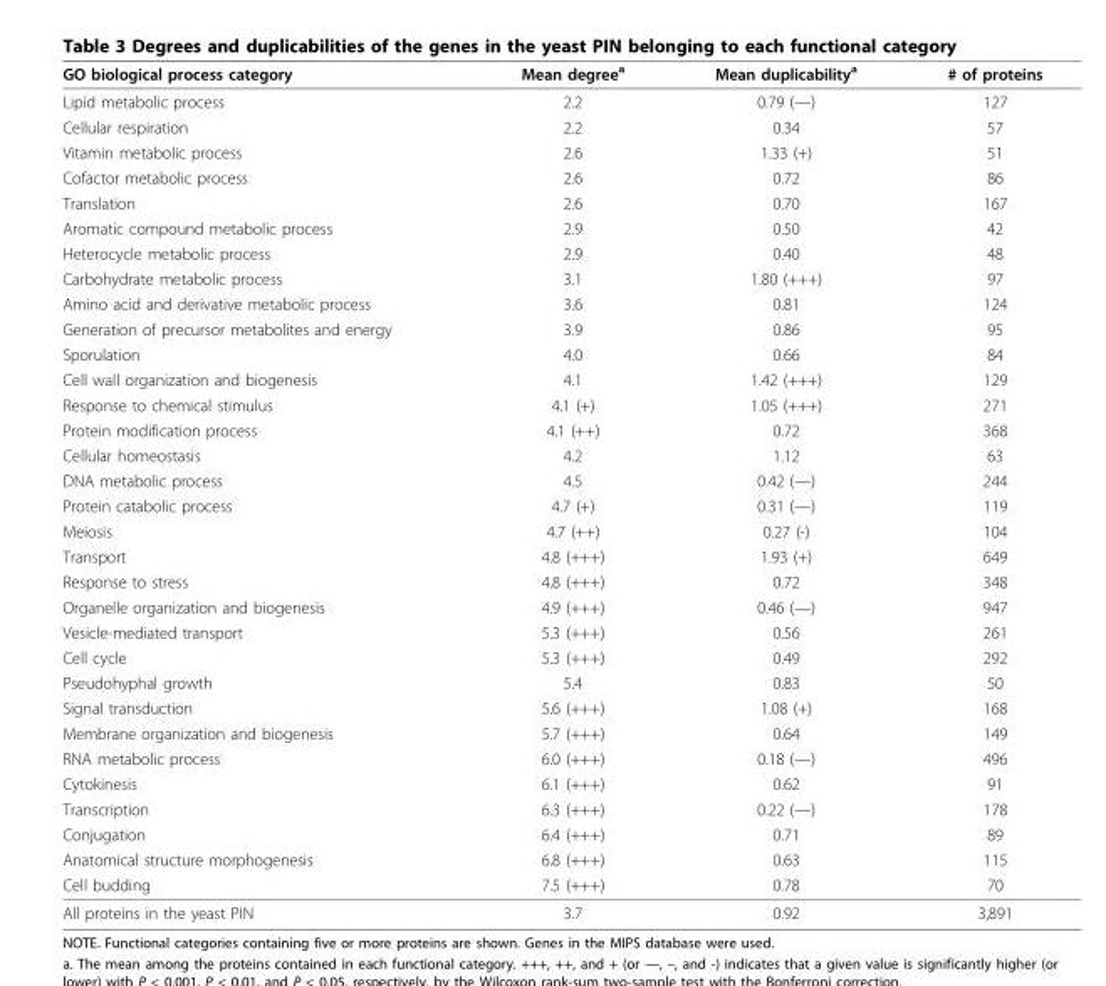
<table><thead><tr><td>GO biological process category</td><td>Mean degree<sup>a</sup></td><td>Mean duplicability<sup>a</sup></td><td># of proteins</td></tr></thead><tbody><tr><td>Lipid metabolic process</td><td>2.2</td><td>0.79 (—)</td><td>127</td></tr><tr><td>Cellular respiration</td><td>2.2</td><td>0.34</td><td>57</td></tr><tr><td>Vitamin metabolic process</td><td>2.6</td><td>1.33 (+)</td><td>51</td></tr><tr><td>Cofactor metabolic process</td><td>2.6</td><td>0.72</td><td>86</td></tr><tr><td>Translation</td><td>2.6</td><td>0.70</td><td>167</td></tr><tr><td>Aromatic compound metabolic process</td><td>2.9</td><td>0.50</td><td>42</td></tr><tr><td>Heterocycle metabolic process</td><td>2.9</td><td>0.40</td><td>48</td></tr><tr><td>Carbohydrate metabolic process</td><td>3.1</td><td>1.80 (+++)</td><td>97</td></tr><tr><td>Amino acid and derivative metabolic process</td><td>3.6</td><td>0.81</td><td>124</td></tr><tr><td>Generation of precursor metabolites and energy</td><td>3.9</td><td>0.86</td><td>95</td></tr><tr><td>Sporulation</td><td>4.0</td><td>0.66</td><td>84</td></tr><tr><td>Cell wall organization and biogenesis</td><td>4.1</td><td>1.42 (+++)</td><td>129</td></tr><tr><td>Response to chemical stimulus</td><td>4.1 (+)</td><td>1.05 (+++)</td><td>271</td></tr><tr><td>Protein modification process</td><td>4.1 (++)</td><td>0.72</td><td>368</td></tr><tr><td>Cellular homeostasis</td><td>4.2</td><td>1.12</td><td>63</td></tr><tr><td>DNA metabolic process</td><td>4.5</td><td>0.42 (—)</td><td>244</td></tr><tr><td>Protein catabolic process</td><td>4.7 (+)</td><td>0.31 (—)</td><td>119</td></tr><tr><td>Meiosis</td><td>4.7 (++)</td><td>0.27 (-)</td><td>104</td></tr><tr><td>Transport</td><td>4.8 (+++)</td><td>1.93 (+)</td><td>649</td></tr><tr><td>Response to stress</td><td>4.8 (+++)</td><td>0.72</td><td>348</td></tr><tr><td>Organelle organization and biogenesis</td><td>4.9 (+++)</td><td>0.46 (—)</td><td>947</td></tr><tr><td>Vesicle-mediated transport</td><td>5.3 (+++)</td><td>0.56</td><td>261</td></tr><tr><td>Cell cycle</td><td>5.3 (+++)</td><td>0.49</td><td>292</td></tr><tr><td>Pseudohyphal growth</td><td>5.4</td><td>0.83</td><td>50</td></tr><tr><td>Signal transduction</td><td>5.6 (+++)</td><td>1.08 (+)</td><td>168</td></tr><tr><td>Membrane organization and biogenesis</td><td>5.7 (+++)</td><td>0.64</td><td>149</td></tr><tr><td>RNA metabolic process</td><td>6.0 (+++)</td><td>0.18 (—)</td><td>496</td></tr><tr><td>Cytokinesis</td><td>6.1 (+++)</td><td>0.62</td><td>91</td></tr><tr><td>Transcription</td><td>6.3 (+++)</td><td>0.22 (—)</td><td>178</td></tr><tr><td>Conjugation</td><td>6.4 (+++)</td><td>0.71</td><td>89</td></tr><tr><td>Anatomical structure morphogenesis</td><td>6.8 (+++)</td><td>0.63</td><td>115</td></tr><tr><td>Cell budding</td><td>7.5 (+++)</td><td>0.78</td><td>70</td></tr><tr><td>All proteins in the yeast PIN</td><td>3.7</td><td>0.92</td><td>3,891</td></tr></tbody></table>